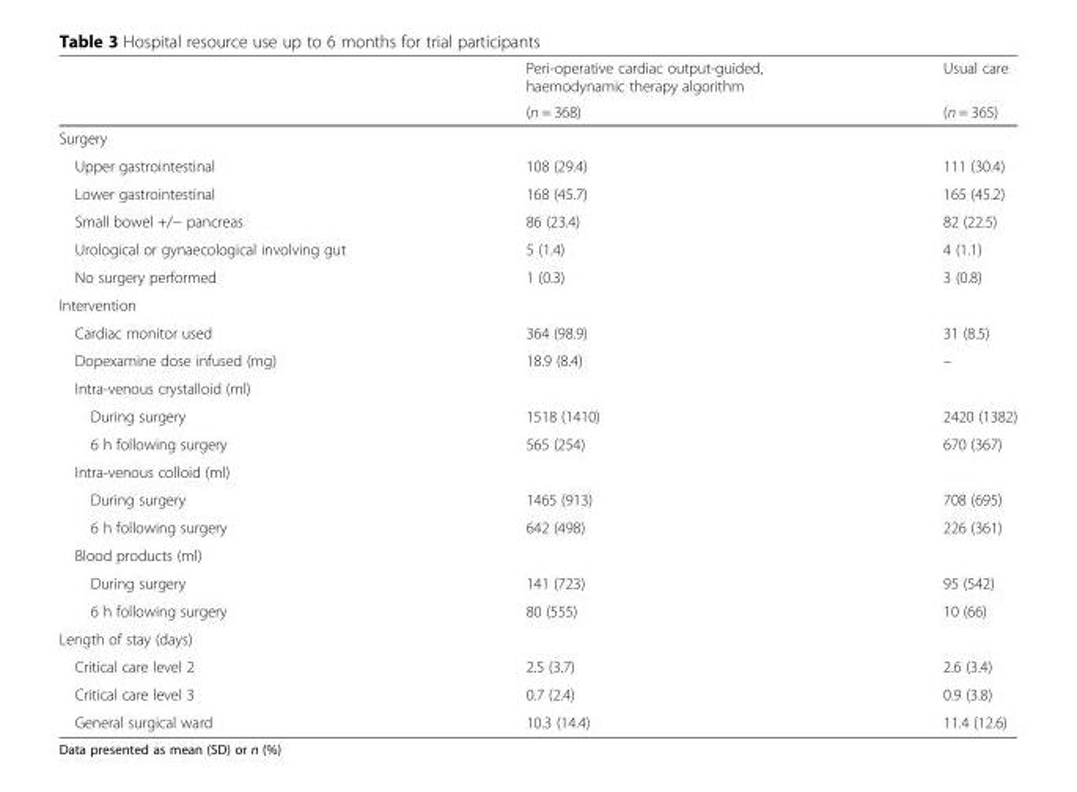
<table><thead><tr><td rowspan="2"></td><td rowspan="2">Peri-operative cardiac output-guided, haemodynamic therapy algorithm (n = 368)</td><td rowspan="2">Usual care (n = 365)</td></tr><tr></tr></thead><tbody><tr><td colspan="3">Surgery</td></tr><tr><td>Upper gastrointestinal</td><td>108 (29.4)</td><td>111 (30.4)</td></tr><tr><td>Lower gastrointestinal</td><td>168 (45.7)</td><td>165 (45.2)</td></tr><tr><td>Small bowel +/− pancreas</td><td>86 (23.4)</td><td>82 (22.5)</td></tr><tr><td>Urological or gynaecological involving gut</td><td>5 (1.4)</td><td>4 (1.1)</td></tr><tr><td>No surgery performed</td><td>1 (0.3)</td><td>3 (0.8)</td></tr><tr><td colspan="3">Intervention</td></tr><tr><td>Cardiac monitor used</td><td>364 (98.9)</td><td>31 (8.5)</td></tr><tr><td>Dopexamine dose infused (mg)</td><td>18.9 (8.4)</td><td>–</td></tr><tr><td colspan="3">Intra-venous crystalloid (ml)</td></tr><tr><td>During surgery</td><td>1518 (1410)</td><td>2420 (1382)</td></tr><tr><td>6 h following surgery</td><td>565 (254)</td><td>670 (367)</td></tr><tr><td colspan="3">Intra-venous colloid (ml)</td></tr><tr><td>During surgery</td><td>1465 (913)</td><td>708 (695)</td></tr><tr><td>6 h following surgery</td><td>642 (498)</td><td>226 (361)</td></tr><tr><td colspan="3">Blood products (ml)</td></tr><tr><td>During surgery</td><td>141 (723)</td><td>95 (542)</td></tr><tr><td>6 h following surgery</td><td>80 (555)</td><td>10 (66)</td></tr><tr><td colspan="3">Length of stay (days)</td></tr><tr><td>Critical care level 2</td><td>2.5 (3.7)</td><td>2.6 (3.4)</td></tr><tr><td>Critical care level 3</td><td>0.7 (2.4)</td><td>0.9 (3.8)</td></tr><tr><td>General surgical ward</td><td>10.3 (14.4)</td><td>11.4 (12.6)</td></tr></tbody></table>